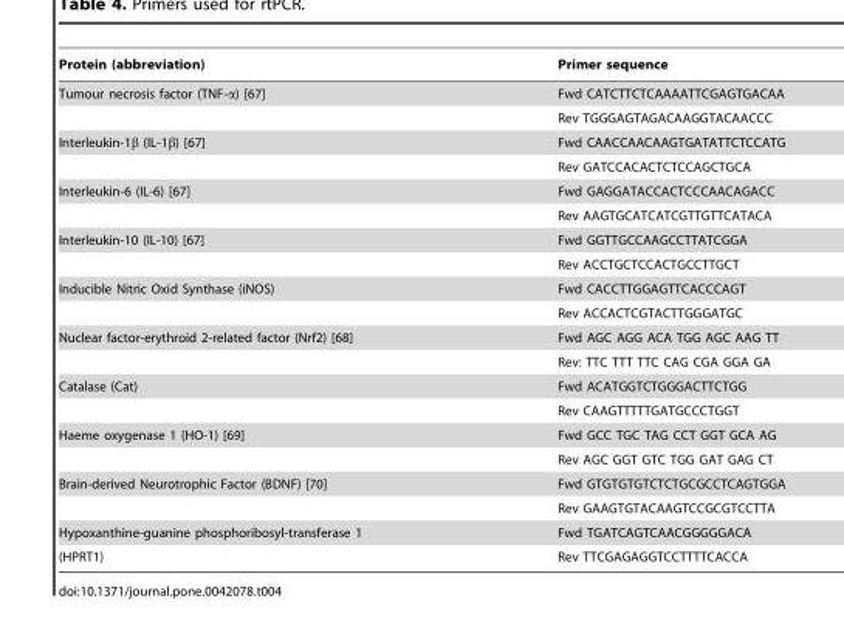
<table><thead><tr><td>Protein (abbreviation)</td><td>Primer sequence</td></tr></thead><tbody><tr><td rowspan="2">Tumour necrosis factor (TNF-α) [67]</td><td>Fwd CATCTTCTCAAAATTCGAGTGACAA</td></tr><tr><td>Rev TGGGAGTAGACAAGGTACAACCC</td></tr><tr><td rowspan="2">Interleukin-1β (IL-1β) [67]</td><td>Fwd CAACCAACAAGTGATATTCTCCATG</td></tr><tr><td>Rev GATCCACACTCTCCAGCTGCA</td></tr><tr><td rowspan="2">Interleukin-6 (IL-6) [67]</td><td>Fwd GAGGATACCACTCCCAACAGACC</td></tr><tr><td>Rev AAGTGCATCATCGTTGTTCATACA</td></tr><tr><td rowspan="2">Interleukin-10 (IL-10) [67]</td><td>Fwd GGTTGCCAAGCCTTATCGGA</td></tr><tr><td>Rev ACCTGCTCCACTGCCTTGCT</td></tr><tr><td rowspan="2">Inducible Nitric Oxid Synthase (iNOS)</td><td>Fwd CACCTTGGAGTTCACCCAGT</td></tr><tr><td>Rev ACCACTCGTACTTGGGATGC</td></tr><tr><td rowspan="2">Nuclear factor-erythroid 2-related factor (Nrf2) [68]</td><td>Fwd AGC AGG ACA TGG AGC AAG TT</td></tr><tr><td>Rev: TTC TTT TTC CAG CGA GGA GA</td></tr><tr><td rowspan="2">Catalase (Cat)</td><td>Fwd ACATGGTCTGGGACTTCTGG</td></tr><tr><td>Rev CAAGTTTTTGATGCCCTGGT</td></tr><tr><td rowspan="2">Haeme oxygenase 1 (HO-1) [69]</td><td>Fwd GCC TGC TAG CCT GGT GCA AG</td></tr><tr><td>Rev AGC GGT GTC TGG GAT GAG CT</td></tr><tr><td rowspan="2">Brain-derived Neurotrophic Factor (BDNF) [70]</td><td>Fwd GTGTGTGTCTCTGCGCCTCAGTGGA</td></tr><tr><td>Rev GAAGTGTACAAGTCCGCGTCCTTA</td></tr><tr><td>Hypoxanthine-guanine phosphoribosyl-transferase 1</td><td>Fwd TGATCAGTCAACGGGGGACA</td></tr><tr><td>(HPRT1)</td><td>Rev TTCGAGAGGTCCTTTTCACCA</td></tr></tbody></table>